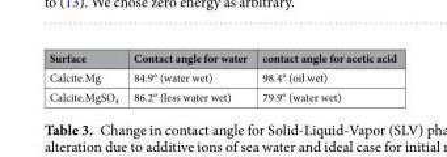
<table><thead><tr><td>Surface</td><td>Contact angle for water</td><td>contact angle for acetic acid</td></tr></thead><tbody><tr><td>Calcite.Mg</td><td>84.9° (water wet)</td><td>98.4° (oil wet)</td></tr><tr><td>Calcite.MgSO<sub>4</sub></td><td>86.2° (less water wet)</td><td>79.9° (water wet)</td></tr></tbody></table>